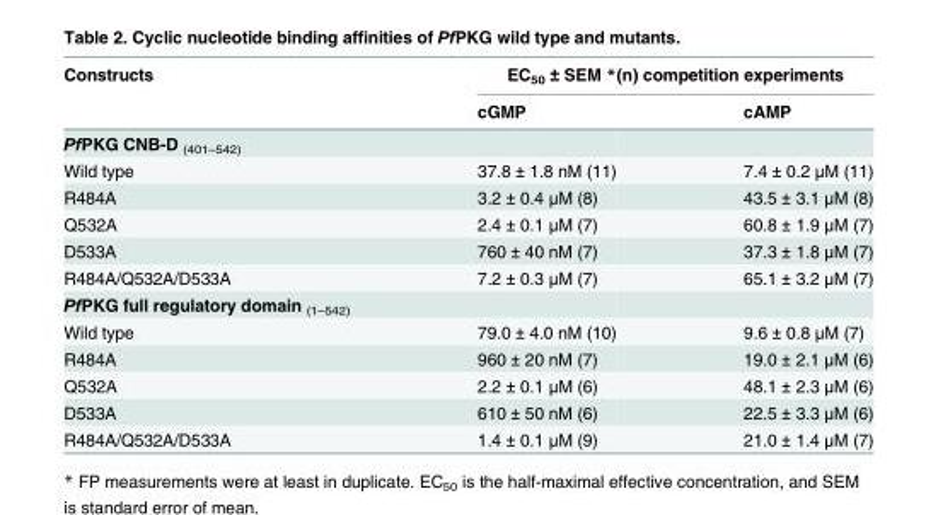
<table><thead><tr><td rowspan="2">Constructs</td><td colspan="2">EC<sub>50</sub> ± SEM *(n) competition experiments</td></tr><tr><td>cGMP</td><td>cAMP</td></tr></thead><tbody><tr><td colspan="3">PfPKG CNB-D <sub>(401–542)</sub></td></tr><tr><td>Wild type</td><td>37.8 ± 1.8 nM (11)</td><td>7.4 ± 0.2 μM (11)</td></tr><tr><td>R484A</td><td>3.2 ± 0.4 μM (8)</td><td>43.5 ± 3.1 μM (8)</td></tr><tr><td>Q532A</td><td>2.4 ± 0.1 μM (7)</td><td>60.8 ± 1.9 μM (7)</td></tr><tr><td>D533A</td><td>760 ± 40 nM (7)</td><td>37.3 ± 1.8 μM (7)</td></tr><tr><td>R484A/Q532A/D533A</td><td>7.2 ± 0.3 μM (7)</td><td>65.1 ± 3.2 μM (7)</td></tr><tr><td colspan="3">PfPKG full regulatory domain <sub>(1–542)</sub></td></tr><tr><td>Wild type</td><td>79.0 ± 4.0 nM (10)</td><td>9.6 ± 0.8 μM (7)</td></tr><tr><td>R484A</td><td>960 ± 20 nM (7)</td><td>19.0 ± 2.1 μM (6)</td></tr><tr><td>Q532A</td><td>2.2 ± 0.1 μM (6)</td><td>48.1 ± 2.3 μM (6)</td></tr><tr><td>D533A</td><td>610 ± 50 nM (6)</td><td>22.5 ± 3.3 μM (6)</td></tr><tr><td>R484A/Q532A/D533A</td><td>1.4 ± 0.1 μM (9)</td><td>21.0 ± 1.4 μM (7)</td></tr></tbody></table>